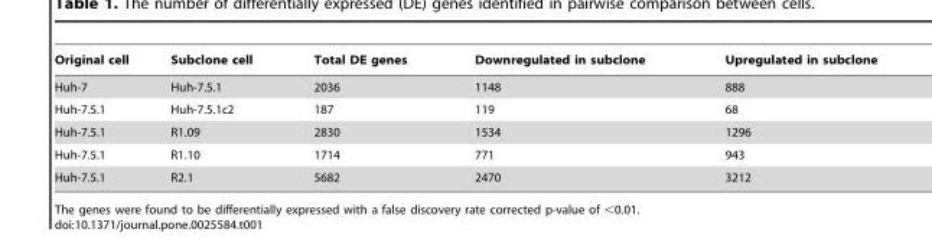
<table><thead><tr><td>Original cell</td><td>Subclone cell</td><td>Total DE genes</td><td>Downregulated in subclone</td><td>Upregulated in subclone</td></tr></thead><tbody><tr><td>Huh-7</td><td>Huh-7.5.1</td><td>2036</td><td>1148</td><td>888</td></tr><tr><td>Huh-7.5.1</td><td>Huh-7.5.1c2</td><td>187</td><td>119</td><td>68</td></tr><tr><td>Huh-7.5.1</td><td>R1.09</td><td>2830</td><td>1534</td><td>1296</td></tr><tr><td>Huh-7.5.1</td><td>R1.10</td><td>1714</td><td>771</td><td>943</td></tr><tr><td>Huh-7.5.1</td><td>R2.1</td><td>5682</td><td>2470</td><td>3212</td></tr></tbody></table>